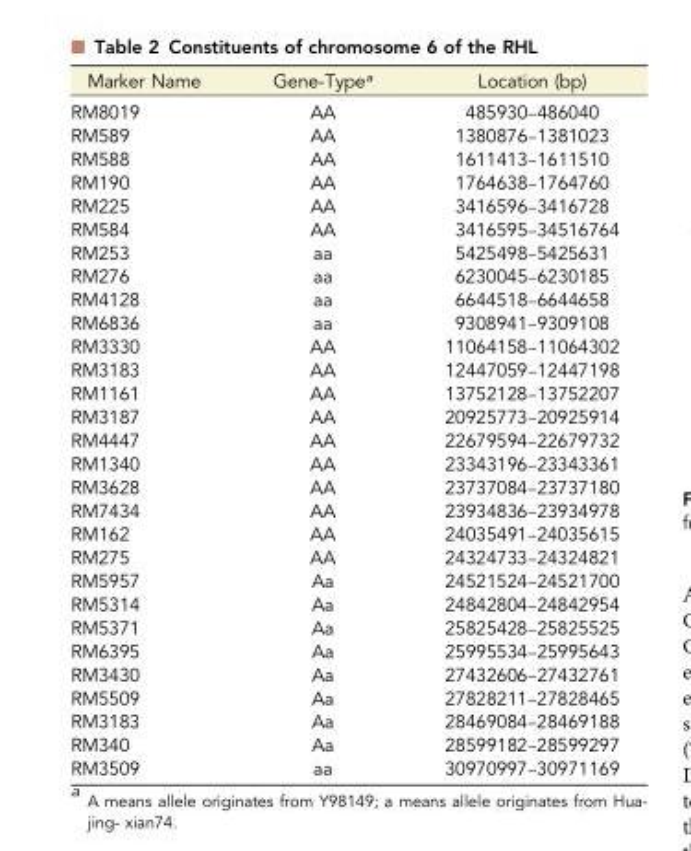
<table><thead><tr><td>Marker Name</td><td>Gene-Type<sup>a</sup></td><td>Location (bp)</td></tr></thead><tbody><tr><td>RM8019</td><td>AA</td><td>485930–486040</td></tr><tr><td>RM589</td><td>AA</td><td>1380876–1381023</td></tr><tr><td>RM588</td><td>AA</td><td>1611413–1611510</td></tr><tr><td>RM190</td><td>AA</td><td>1764638–1764760</td></tr><tr><td>RM225</td><td>AA</td><td>3416596–3416728</td></tr><tr><td>RM584</td><td>AA</td><td>3416595–34516764</td></tr><tr><td>RM253</td><td>aa</td><td>5425498–5425631</td></tr><tr><td>RM276</td><td>aa</td><td>6230045–6230185</td></tr><tr><td>RM4128</td><td>aa</td><td>6644518–6644658</td></tr><tr><td>RM6836</td><td>aa</td><td>9308941–9309108</td></tr><tr><td>RM3330</td><td>AA</td><td>11064158–11064302</td></tr><tr><td>RM3183</td><td>AA</td><td>12447059–12447198</td></tr><tr><td>RM1161</td><td>AA</td><td>13752128–13752207</td></tr><tr><td>RM3187</td><td>AA</td><td>20925773–20925914</td></tr><tr><td>RM4447</td><td>AA</td><td>22679594–22679732</td></tr><tr><td>RM1340</td><td>AA</td><td>23343196–23343361</td></tr><tr><td>RM3628</td><td>AA</td><td>23737084–23737180</td></tr><tr><td>RM7434</td><td>AA</td><td>23934836–23934978</td></tr><tr><td>RM162</td><td>AA</td><td>24035491–24035615</td></tr><tr><td>RM275</td><td>AA</td><td>24324733–24324821</td></tr><tr><td>RM5957</td><td>Aa</td><td>24521524–24521700</td></tr><tr><td>RM5314</td><td>Aa</td><td>24842804–24842954</td></tr><tr><td>RM5371</td><td>Aa</td><td>25825428–25825525</td></tr><tr><td>RM6395</td><td>Aa</td><td>25995534–25995643</td></tr><tr><td>RM3430</td><td>Aa</td><td>27432606–27432761</td></tr><tr><td>RM5509</td><td>Aa</td><td>27828211–27828465</td></tr><tr><td>RM3183</td><td>Aa</td><td>28469084–28469188</td></tr><tr><td>RM340</td><td>Aa</td><td>28599182–28599297</td></tr><tr><td>RM3509</td><td>aa</td><td>30970997–30971169</td></tr></tbody></table>